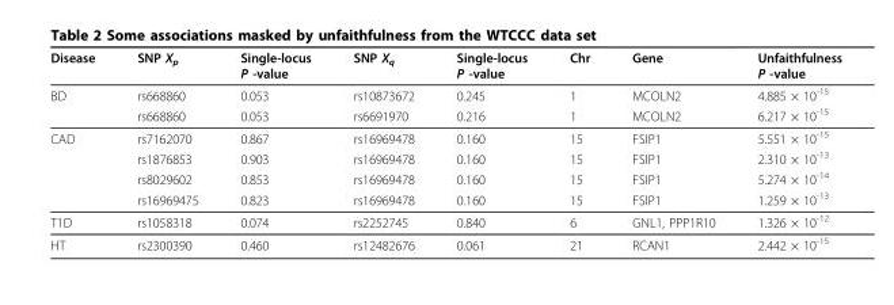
<table><thead><tr><td>Disease</td><td>SNP X<sub>p</sub></td><td>Single-locus P -value</td><td>SNP X<sub>q</sub></td><td>Single-locus P -value</td><td>Chr</td><td>Gene</td><td>Unfaithfulness P -value</td></tr></thead><tbody><tr><td rowspan="2">BD</td><td>rs668860</td><td>0.053</td><td>rs10873672</td><td>0.245</td><td>1</td><td>MCOLN2</td><td>4.885 × 10<sup>-15</sup></td></tr><tr><td>rs668860</td><td>0.053</td><td>rs6691970</td><td>0.216</td><td>1</td><td>MCOLN2</td><td>6.217 × 10<sup>-15</sup></td></tr><tr><td rowspan="4">CAD</td><td>rs7162070</td><td>0.867</td><td>rs16969478</td><td>0.160</td><td>15</td><td>FSIP1</td><td>5.551 × 10<sup>-15</sup></td></tr><tr><td>rs1876853</td><td>0.903</td><td>rs16969478</td><td>0.160</td><td>15</td><td>FSIP1</td><td>2.310 × 10<sup>-13</sup></td></tr><tr><td>rs8029602</td><td>0.853</td><td>rs16969478</td><td>0.160</td><td>15</td><td>FSIP1</td><td>5.274 × 10<sup>-14</sup></td></tr><tr><td>rs16969475</td><td>0.823</td><td>rs16969478</td><td>0.160</td><td>15</td><td>FSIP1</td><td>1.259 × 10<sup>-13</sup></td></tr><tr><td>T1D</td><td>rs1058318</td><td>0.074</td><td>rs2252745</td><td>0.840</td><td>6</td><td>GNL1, PPP1R10</td><td>1.326 × 10<sup>-12</sup></td></tr><tr><td>HT</td><td>rs2300390</td><td>0.460</td><td>rs12482676</td><td>0.061</td><td>21</td><td>RCAN1</td><td>2.442 × 10<sup>-15</sup></td></tr></tbody></table>